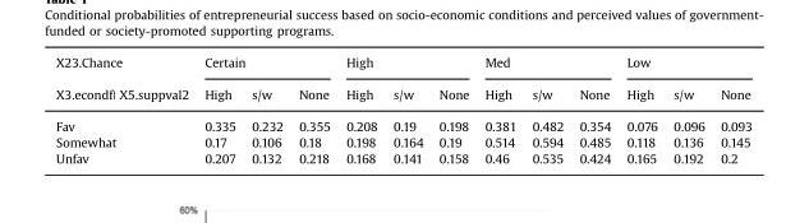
<table><thead><tr><td rowspan="2">X23.Chance X3.econdf| X5.suppval2</td><td colspan="3">Certain</td><td colspan="3">High</td><td colspan="3">Med</td><td colspan="3">Low</td></tr><tr><td>High</td><td>s/w</td><td>None</td><td>High</td><td>s/w</td><td>None</td><td>High</td><td>s/w</td><td>None</td><td>High</td><td>s/w</td><td>None</td></tr></thead><tbody><tr><td>Fav</td><td>0.335</td><td>0.232</td><td>0.355</td><td>0.208</td><td>0.19</td><td>0.198</td><td>0.381</td><td>0.482</td><td>0.354</td><td>0.076</td><td>0.096</td><td>0.093</td></tr><tr><td>Somewhat</td><td>0.17</td><td>0.106</td><td>0.18</td><td>0.198</td><td>0.164</td><td>0.19</td><td>0.514</td><td>0.594</td><td>0.485</td><td>0.118</td><td>0.136</td><td>0.145</td></tr><tr><td>Unfav</td><td>0.207</td><td>0.132</td><td>0.218</td><td>0.168</td><td>0.141</td><td>0.158</td><td>0.46</td><td>0.535</td><td>0.424</td><td>0.165</td><td>0.192</td><td>0.2</td></tr></tbody></table>